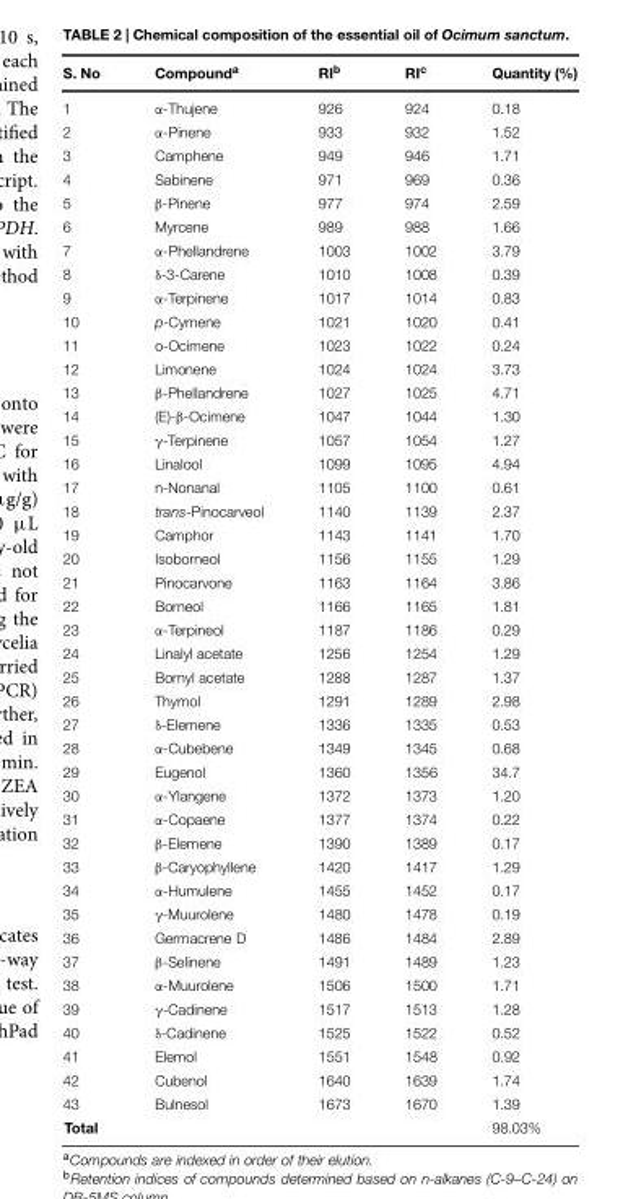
<table><thead><tr><td>S. No</td><td>Compound<sup>a</sup></td><td>RI<sup>b</sup></td><td>RI<sup>c</sup></td><td>Quantity (%)</td></tr></thead><tbody><tr><td>1</td><td>α-Thujene</td><td>926</td><td>924</td><td>0.18</td></tr><tr><td>2</td><td>α-Pinene</td><td>933</td><td>932</td><td>1.52</td></tr><tr><td>3</td><td>Camphene</td><td>949</td><td>946</td><td>1.71</td></tr><tr><td>4</td><td>Sabinene</td><td>971</td><td>969</td><td>0.36</td></tr><tr><td>5</td><td>β-Pinene</td><td>977</td><td>974</td><td>2.59</td></tr><tr><td>6</td><td>Myrcene</td><td>989</td><td>988</td><td>1.66</td></tr><tr><td>7</td><td>α-Phellandrene</td><td>1003</td><td>1002</td><td>3.79</td></tr><tr><td>8</td><td>δ-3-Carene</td><td>1010</td><td>1008</td><td>0.39</td></tr><tr><td>9</td><td>α-Terpinene</td><td>1017</td><td>1014</td><td>0.83</td></tr><tr><td>10</td><td>p-Cymene</td><td>1021</td><td>1020</td><td>0.41</td></tr><tr><td>11</td><td>o-Ocimene</td><td>1023</td><td>1022</td><td>0.24</td></tr><tr><td>12</td><td>Limonene</td><td>1024</td><td>1024</td><td>3.73</td></tr><tr><td>13</td><td>β-Phellandrene</td><td>1027</td><td>1025</td><td>4.71</td></tr><tr><td>14</td><td>(E)-β-Ocimene</td><td>1047</td><td>1044</td><td>1.30</td></tr><tr><td>15</td><td>γ-Terpinene</td><td>1057</td><td>1054</td><td>1.27</td></tr><tr><td>16</td><td>Linalool</td><td>1099</td><td>1095</td><td>4.94</td></tr><tr><td>17</td><td>n-Nonanal</td><td>1105</td><td>1100</td><td>0.61</td></tr><tr><td>18</td><td>trans-Pinocarveol</td><td>1140</td><td>1139</td><td>2.37</td></tr><tr><td>19</td><td>Camphor</td><td>1143</td><td>1141</td><td>1.70</td></tr><tr><td>20</td><td>Isoborneol</td><td>1156</td><td>1155</td><td>1.29</td></tr><tr><td>21</td><td>Pinocarvone</td><td>1163</td><td>1164</td><td>3.86</td></tr><tr><td>22</td><td>Borneol</td><td>1166</td><td>1165</td><td>1.81</td></tr><tr><td>23</td><td>α-Terpineol</td><td>1187</td><td>1186</td><td>0.29</td></tr><tr><td>24</td><td>Linalyl acetate</td><td>1256</td><td>1254</td><td>1.29</td></tr><tr><td>25</td><td>Bornyl acetate</td><td>1288</td><td>1287</td><td>1.37</td></tr><tr><td>26</td><td>Thymol</td><td>1291</td><td>1289</td><td>2.98</td></tr><tr><td>27</td><td>δ-Elemene</td><td>1336</td><td>1335</td><td>0.53</td></tr><tr><td>28</td><td>α-Cubebene</td><td>1349</td><td>1345</td><td>0.68</td></tr><tr><td>29</td><td>Eugenol</td><td>1360</td><td>1356</td><td>34.7</td></tr><tr><td>30</td><td>α-Ylangene</td><td>1372</td><td>1373</td><td>1.20</td></tr><tr><td>31</td><td>α-Copaene</td><td>1377</td><td>1374</td><td>0.22</td></tr><tr><td>32</td><td>β-Elemene</td><td>1390</td><td>1389</td><td>0.17</td></tr><tr><td>33</td><td>β-Caryophyllene</td><td>1420</td><td>1417</td><td>1.29</td></tr><tr><td>34</td><td>α-Humulene</td><td>1455</td><td>1452</td><td>0.17</td></tr><tr><td>35</td><td>γ-Muurolene</td><td>1480</td><td>1478</td><td>0.19</td></tr><tr><td>36</td><td>Germacrene D</td><td>1486</td><td>1484</td><td>2.89</td></tr><tr><td>37</td><td>β-Selinene</td><td>1491</td><td>1489</td><td>1.23</td></tr><tr><td>38</td><td>α-Muurolene</td><td>1506</td><td>1500</td><td>1.71</td></tr><tr><td>39</td><td>γ-Cadinene</td><td>1517</td><td>1513</td><td>1.28</td></tr><tr><td>40</td><td>δ-Cadinene</td><td>1525</td><td>1522</td><td>0.52</td></tr><tr><td>41</td><td>Elemol</td><td>1551</td><td>1548</td><td>0.92</td></tr><tr><td>42</td><td>Cubenol</td><td>1640</td><td>1639</td><td>1.74</td></tr><tr><td>43</td><td>Bulnesol</td><td>1673</td><td>1670</td><td>1.39</td></tr><tr><td colspan="4">Total</td><td>98.03%</td></tr></tbody></table>